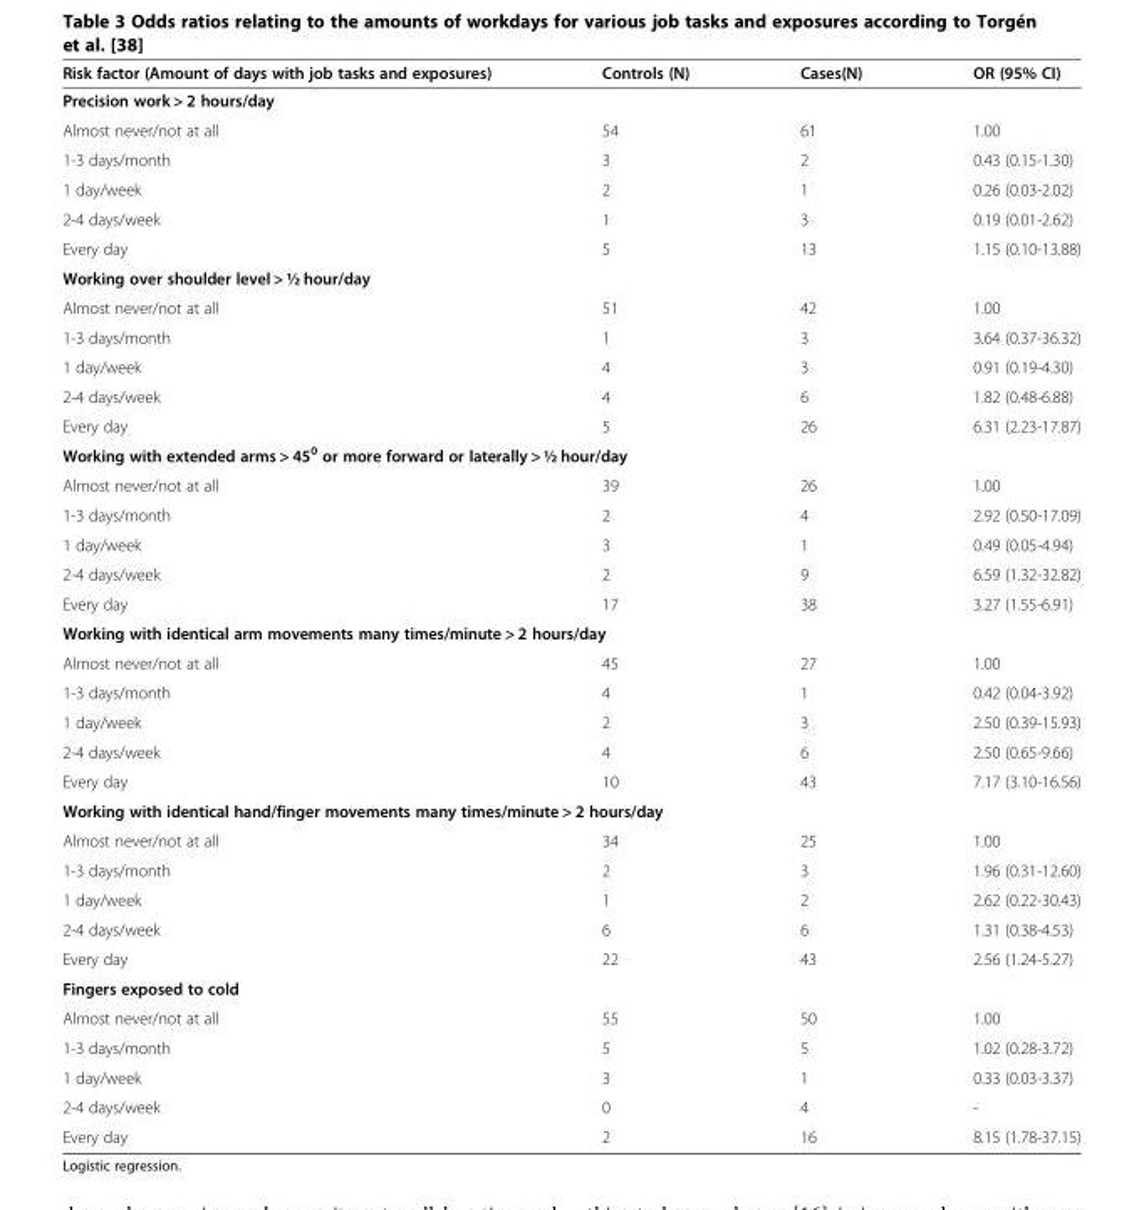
<table><thead><tr><td>Risk factor (Amount of days with job tasks and exposures)</td><td>Controls (N)</td><td>Cases(N)</td><td>OR (95% CI)</td></tr></thead><tbody><tr><td colspan="4">Precision work &gt; 2 hours/day</td></tr><tr><td>Almost never/not at all</td><td>54</td><td>61</td><td>1.00</td></tr><tr><td>1-3 days/month</td><td>3</td><td>2</td><td>0.43 (0.15-1.30)</td></tr><tr><td>1 day/week</td><td>2</td><td>1</td><td>0.26 (0.03-2.02)</td></tr><tr><td>2-4 days/week</td><td>1</td><td>3</td><td>0.19 (0.01-2.62)</td></tr><tr><td>Every day</td><td>5</td><td>13</td><td>1.15 (0.10-13.88)</td></tr><tr><td colspan="4">Working over shoulder level &gt; ½ hour/day</td></tr><tr><td>Almost never/not at all</td><td>51</td><td>42</td><td>1.00</td></tr><tr><td>1-3 days/month</td><td>1</td><td>3</td><td>3.64 (0.37-36.32)</td></tr><tr><td>1 day/week</td><td>4</td><td>3</td><td>0.91 (0.19-4.30)</td></tr><tr><td>2-4 days/week</td><td>4</td><td>6</td><td>1.82 (0.48-6.88)</td></tr><tr><td>Every day</td><td>5</td><td>26</td><td>6.31 (2.23-17.87)</td></tr><tr><td colspan="4">Working with extended arms &gt; 45<sup>0</sup> or more forward or laterally &gt; ½ hour/day</td></tr><tr><td>Almost never/not at all</td><td>39</td><td>26</td><td>1.00</td></tr><tr><td>1-3 days/month</td><td>2</td><td>4</td><td>2.92 (0.50-17.09)</td></tr><tr><td>1 day/week</td><td>3</td><td>1</td><td>0.49 (0.05-4.94)</td></tr><tr><td>2-4 days/week</td><td>2</td><td>9</td><td>6.59 (1.32-32.82)</td></tr><tr><td>Every day</td><td>17</td><td>38</td><td>3.27 (1.55-6.91)</td></tr><tr><td colspan="4">Working with identical arm movements many times/minute &gt; 2 hours/day</td></tr><tr><td>Almost never/not at all</td><td>45</td><td>27</td><td>1.00</td></tr><tr><td>1-3 days/month</td><td>4</td><td>1</td><td>0.42 (0.04-3.92)</td></tr><tr><td>1 day/week</td><td>2</td><td>3</td><td>2.50 (0.39-15.93)</td></tr><tr><td>2-4 days/week</td><td>4</td><td>6</td><td>2.50 (0.65-9.66)</td></tr><tr><td>Every day</td><td>10</td><td>43</td><td>7.17 (3.10-16.56)</td></tr><tr><td colspan="4">Working with identical hand/finger movements many times/minute &gt; 2 hours/day</td></tr><tr><td>Almost never/not at all</td><td>34</td><td>25</td><td>1.00</td></tr><tr><td>1-3 days/month</td><td>2</td><td>3</td><td>1.96 (0.31-12.60)</td></tr><tr><td>1 day/week</td><td>1</td><td>2</td><td>2.62 (0.22-30.43)</td></tr><tr><td>2-4 days/week</td><td>6</td><td>6</td><td>1.31 (0.38-4.53)</td></tr><tr><td>Every day</td><td>22</td><td>43</td><td>2.56 (1.24-5.27)</td></tr><tr><td colspan="4">Fingers exposed to cold</td></tr><tr><td>Almost never/not at all</td><td>55</td><td>50</td><td>1.00</td></tr><tr><td>1-3 days/month</td><td>5</td><td>5</td><td>1.02 (0.28-3.72)</td></tr><tr><td>1 day/week</td><td>3</td><td>1</td><td>0.33 (0.03-3.37)</td></tr><tr><td>2-4 days/week</td><td>0</td><td>4</td><td>-</td></tr><tr><td>Every day</td><td>2</td><td>16</td><td>8.15 (1.78-37.15)</td></tr></tbody></table>